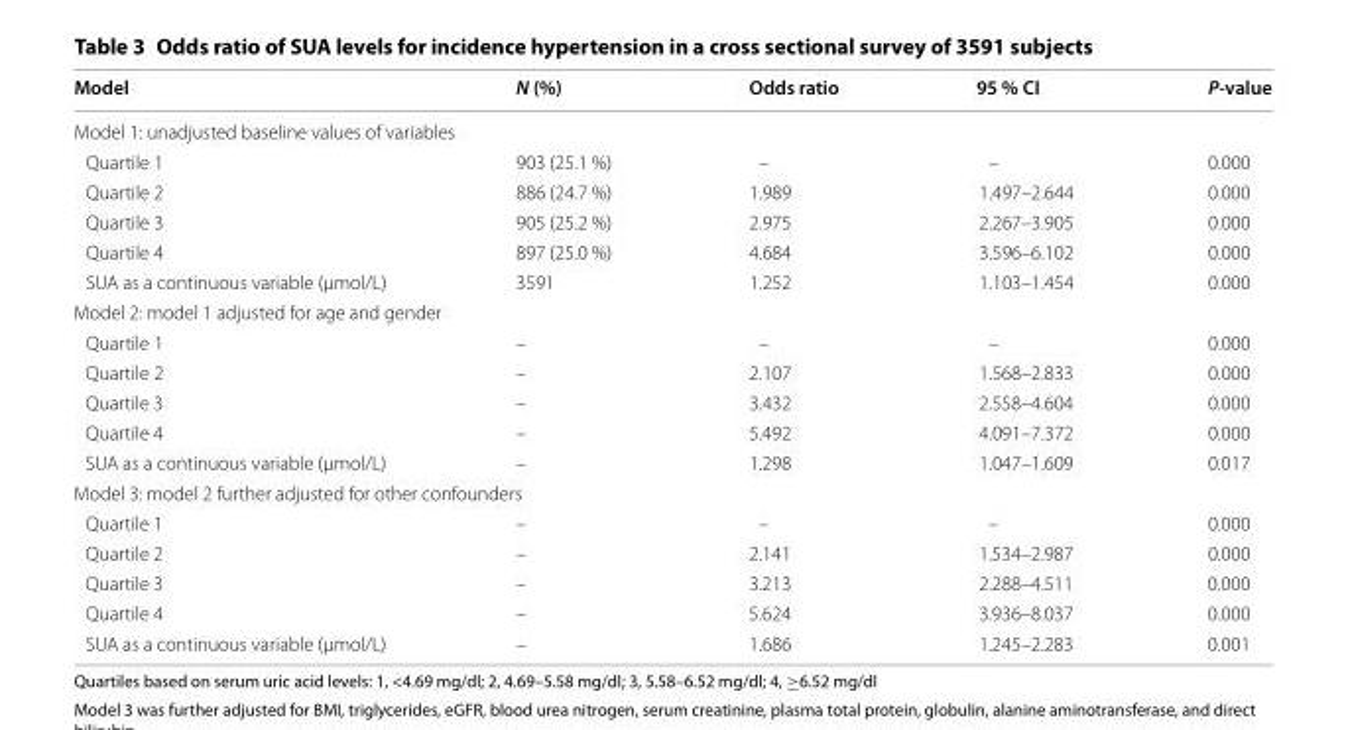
<table><thead><tr><td>Model</td><td>N (%)</td><td>Odds ratio</td><td>95 % CI</td><td>P-value</td></tr></thead><tbody><tr><td colspan="5">Model 1: unadjusted baseline values of variables</td></tr><tr><td>Quartile 1</td><td>903 (25.1 %)</td><td>–</td><td>–</td><td>0.000</td></tr><tr><td>Quartile 2</td><td>886 (24.7 %)</td><td>1.989</td><td>1.497–2.644</td><td>0.000</td></tr><tr><td>Quartile 3</td><td>905 (25.2 %)</td><td>2.975</td><td>2.267–3.905</td><td>0.000</td></tr><tr><td>Quartile 4</td><td>897 (25.0 %)</td><td>4.684</td><td>3.596–6.102</td><td>0.000</td></tr><tr><td>SUA as a continuous variable (μmol/L)</td><td>3591</td><td>1.252</td><td>1.103–1.454</td><td>0.000</td></tr><tr><td colspan="5">Model 2: model 1 adjusted for age and gender</td></tr><tr><td>Quartile 1</td><td>–</td><td>–</td><td>–</td><td>0.000</td></tr><tr><td>Quartile 2</td><td>–</td><td>2.107</td><td>1.568–2.833</td><td>0.000</td></tr><tr><td>Quartile 3</td><td>–</td><td>3.432</td><td>2.558–4.604</td><td>0.000</td></tr><tr><td>Quartile 4</td><td>–</td><td>5.492</td><td>4.091–7.372</td><td>0.000</td></tr><tr><td>SUA as a continuous variable (μmol/L)</td><td>–</td><td>1.298</td><td>1.047–1.609</td><td>0.017</td></tr><tr><td colspan="5">Model 3: model 2 further adjusted for other confounders</td></tr><tr><td>Quartile 1</td><td>–</td><td>–</td><td>–</td><td>0.000</td></tr><tr><td>Quartile 2</td><td>–</td><td>2.141</td><td>1.534–2.987</td><td>0.000</td></tr><tr><td>Quartile 3</td><td>–</td><td>3.213</td><td>2.288–4.511</td><td>0.000</td></tr><tr><td>Quartile 4</td><td>–</td><td>5.624</td><td>3.936–8.037</td><td>0.000</td></tr><tr><td>SUA as a continuous variable (μmol/L)</td><td>–</td><td>1.686</td><td>1.245–2.283</td><td>0.001</td></tr></tbody></table>